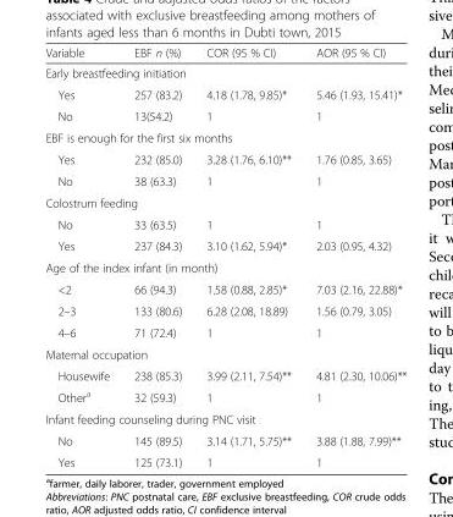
<table><thead><tr><td>Variable</td><td>EBF n (%)</td><td>COR (95 % CI)</td><td>AOR (95 % CI)</td></tr></thead><tbody><tr><td colspan="4">Early breastfeeding initiation</td></tr><tr><td>Yes</td><td>257 (83.2)</td><td>4.18 (1.78, 9.85)*</td><td>5.46 (1.93, 15.41)*</td></tr><tr><td>No</td><td>13(54.2)</td><td>1</td><td>1</td></tr><tr><td colspan="4">EBF is enough for the first six months</td></tr><tr><td>Yes</td><td>232 (85.0)</td><td>3.28 (1.76, 6.10)**</td><td>1.76 (0.85, 3.65)</td></tr><tr><td>No</td><td>38 (63.3)</td><td>1</td><td>1</td></tr><tr><td colspan="4">Colostrum feeding</td></tr><tr><td>No</td><td>33 (63.5)</td><td>1</td><td>1</td></tr><tr><td>Yes</td><td>237 (84.3)</td><td>3.10 (1.62, 5.94)*</td><td>2.03 (0.95, 4.32)</td></tr><tr><td colspan="4">Age of the index infant (in month)</td></tr><tr><td>&lt;2</td><td>66 (94.3)</td><td>1.58 (0.88, 2.85)*</td><td>7.03 (2.16, 22.88)*</td></tr><tr><td>2–3</td><td>133 (80.6)</td><td>6.28 (2.08, 18.89)</td><td>1.56 (0.79, 3.05)</td></tr><tr><td>4–6</td><td>71 (72.4)</td><td>1</td><td>1</td></tr><tr><td colspan="4">Maternal occupation</td></tr><tr><td>Housewife</td><td>238 (85.3)</td><td>3.99 (2.11, 7.54)**</td><td>4.81 (2.30, 10.06)**</td></tr><tr><td>Other<sup>a</sup></td><td>32 (59.3)</td><td>1</td><td>1</td></tr><tr><td colspan="4">Infant feeding counseling during PNC visit</td></tr><tr><td>No</td><td>145 (89.5)</td><td>3.14 (1.71, 5.75)**</td><td>3.88 (1.88, 7.99)**</td></tr><tr><td>Yes</td><td>125 (73.1)</td><td>1</td><td>1</td></tr></tbody></table>